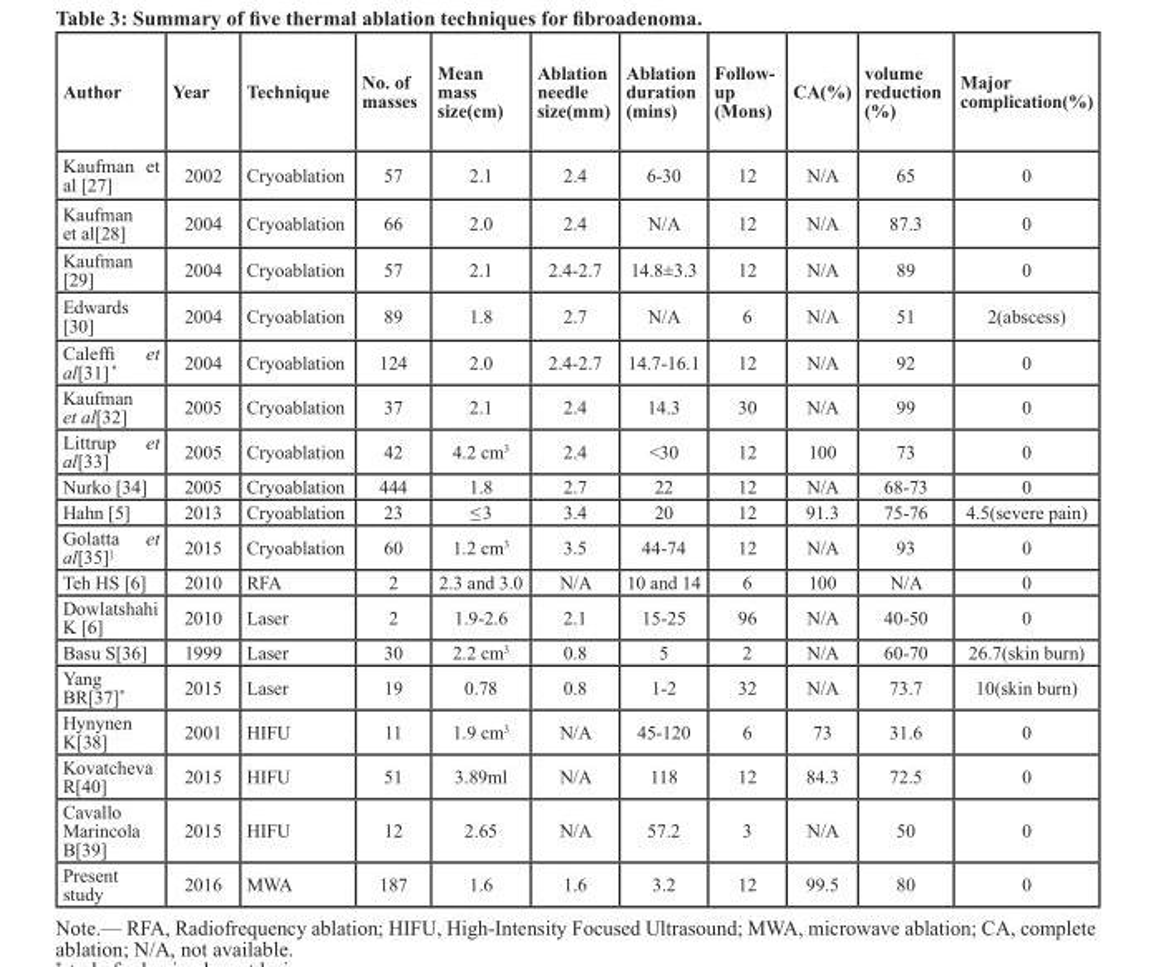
<table><thead><tr><td>Author</td><td>Year</td><td>Technique</td><td>No. of masses</td><td>Mean mass size(cm)</td><td>Ablation needle size(mm)</td><td>Ablation duration (mins)</td><td>Follow- up (Mons)</td><td>CA(%)</td><td>volume reduction (%)</td><td>Major complication(%)</td></tr></thead><tbody><tr><td>Kaufman et al [27]</td><td>2002</td><td>Cryoablation</td><td>57</td><td>2.1</td><td>2.4</td><td>6-30</td><td>12</td><td>N/A</td><td>65</td><td>0</td></tr><tr><td>Kaufman et al[28]</td><td>2004</td><td>Cryoablation</td><td>66</td><td>2.0</td><td>2.4</td><td>N/A</td><td>12</td><td>N/A</td><td>87.3</td><td>0</td></tr><tr><td>Kaufman [29]</td><td>2004</td><td>Cryoablation</td><td>57</td><td>2.1</td><td>2.4-2.7</td><td>14.8±3.3</td><td>12</td><td>N/A</td><td>89</td><td>0</td></tr><tr><td>Edwards [30]</td><td>2004</td><td>Cryoablation</td><td>89</td><td>1.8</td><td>2.7</td><td>N/A</td><td>6</td><td>N/A</td><td>51</td><td>2(abscess)</td></tr><tr><td>Caleffi et al[31] *</td><td>2004</td><td>Cryoablation</td><td>124</td><td>2.0</td><td>2.4-2.7</td><td>14.7-16.1</td><td>12</td><td>N/A</td><td>92</td><td>0</td></tr><tr><td>Kaufman et al[32]</td><td>2005</td><td>Cryoablation</td><td>37</td><td>2.1</td><td>2.4</td><td>14.3</td><td>30</td><td>N/A</td><td>99</td><td>0</td></tr><tr><td>Littrup et al[33]</td><td>2005</td><td>Cryoablation</td><td>42</td><td>4.2 cm<sup>3</sup></td><td>2.4</td><td>&lt;30</td><td>12</td><td>100</td><td>73</td><td>0</td></tr><tr><td>Nurko [34]</td><td>2005</td><td>Cryoablation</td><td>444</td><td>1.8</td><td>2.7</td><td>22</td><td>12</td><td>N/A</td><td>68-73</td><td>0</td></tr><tr><td>Hahn [5]</td><td>2013</td><td>Cryoablation</td><td>23</td><td>≤ 3</td><td>3.4</td><td>20</td><td>12</td><td>91.3</td><td>75-76</td><td>4.5(severe pain)</td></tr><tr><td>Golatta et al[35]<sup>]</sup></td><td>2015</td><td>Cryoablation</td><td>60</td><td>1.2 cm<sup>3</sup></td><td>3.5</td><td>44-74</td><td>12</td><td>N/A</td><td>93</td><td>0</td></tr><tr><td>Teh HS [6]</td><td>2010</td><td>RFA</td><td>2</td><td>2.3 and 3.0</td><td>N/A</td><td>10 and 14</td><td>6</td><td>100</td><td>N/A</td><td>0</td></tr><tr><td>Dowlatshahi K [6]</td><td>2010</td><td>Laser</td><td>2</td><td>1.9-2.6</td><td>2.1</td><td>15-25</td><td>96</td><td>N/A</td><td>40-50</td><td>0</td></tr><tr><td>Basu S[36]</td><td>1999</td><td>Laser</td><td>30</td><td>2.2 cm<sup>3</sup></td><td>0.8</td><td>5</td><td>2</td><td>N/A</td><td>60-70</td><td>26.7(skin burn)</td></tr><tr><td>Yang BR[37]*</td><td>2015</td><td>Laser</td><td>19</td><td>0.78</td><td>0.8</td><td>1-2</td><td>32</td><td>N/A</td><td>73.7</td><td>10(skin burn)</td></tr><tr><td>Hynynen K[38]</td><td>2001</td><td>HIFU</td><td>11</td><td>1.9 cm<sup>3</sup></td><td>N/A</td><td>45-120</td><td>6</td><td>73</td><td>31.6</td><td>0</td></tr><tr><td>Kovatcheva R[40]</td><td>2015</td><td>HIFU</td><td>51</td><td>3.89ml</td><td>N/A</td><td>118</td><td>12</td><td>84.3</td><td>72.5</td><td>0</td></tr><tr><td>Cavallo Marincola B[39]</td><td>2015</td><td>HIFU</td><td>12</td><td>2.65</td><td>N/A</td><td>57.2</td><td>3</td><td>N/A</td><td>50</td><td>0</td></tr><tr><td>Present study</td><td>2016</td><td>MWA</td><td>187</td><td>1.6</td><td>1.6</td><td>3.2</td><td>12</td><td>99.5</td><td>80</td><td>0</td></tr></tbody></table>